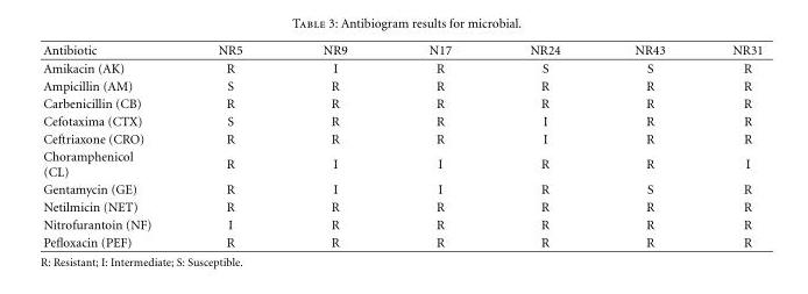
<table><thead><tr><td>Antibiotic</td><td>NR5</td><td>NR9</td><td>N17</td><td>NR24</td><td>NR43</td><td>NR31</td></tr></thead><tbody><tr><td>Amikacin (AK)</td><td>R</td><td>I</td><td>R</td><td>S</td><td>S</td><td>R</td></tr><tr><td>Ampicillin (AM)</td><td>S</td><td>R</td><td>R</td><td>R</td><td>R</td><td>R</td></tr><tr><td>Carbenicillin (CB)</td><td>R</td><td>R</td><td>R</td><td>R</td><td>R</td><td>R</td></tr><tr><td>Cefotaxima (CTX)</td><td>S</td><td>R</td><td>R</td><td>I</td><td>R</td><td>R</td></tr><tr><td>Ceftriaxone (CRO)</td><td>R</td><td>R</td><td>R</td><td>I</td><td>R</td><td>R</td></tr><tr><td>Choramphenicol (CL)</td><td>R</td><td>I</td><td>I</td><td>R</td><td>R</td><td>I</td></tr><tr><td>Gentamycin (GE)</td><td>R</td><td>I</td><td>I</td><td>R</td><td>S</td><td>R</td></tr><tr><td>Netilmicin (NET)</td><td>R</td><td>R</td><td>R</td><td>R</td><td>R</td><td>R</td></tr><tr><td>Nitrofurantoin (NF)</td><td>I</td><td>R</td><td>R</td><td>R</td><td>R</td><td>R</td></tr><tr><td>Pefloxacin (PEF)</td><td>R</td><td>R</td><td>R</td><td>R</td><td>R</td><td>R</td></tr></tbody></table>